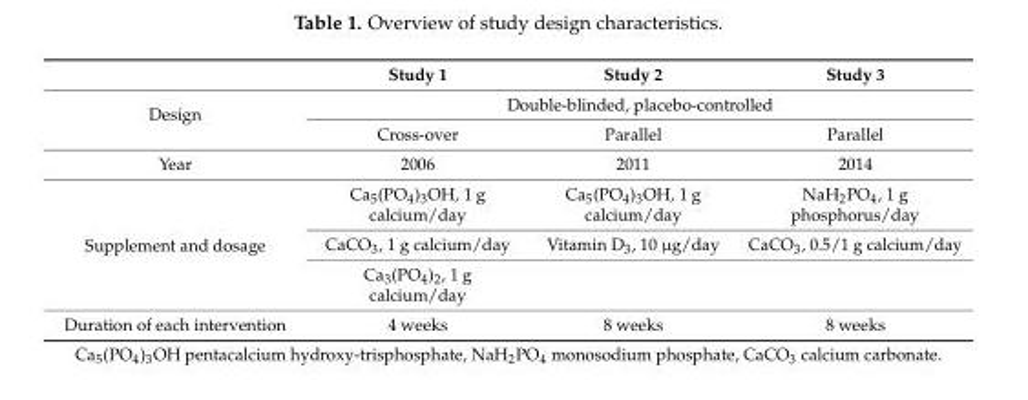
<table><thead><tr><td></td><td>Study 1</td><td>Study 2</td><td>Study 3</td></tr></thead><tbody><tr><td rowspan="2">Design</td><td colspan="3">Double-blinded, placebo-controlled</td></tr><tr><td>Cross-over</td><td>Parallel</td><td>Parallel</td></tr><tr><td>Year</td><td>2006</td><td>2011</td><td>2014</td></tr><tr><td rowspan="3">Supplement and dosage</td><td>Ca<sub>5</sub>(PO<sub>4</sub>)<sub>3</sub>OH, 1 g calcium/day</td><td>Ca<sub>5</sub>(PO<sub>4</sub>)<sub>3</sub>OH, 1 g calcium/day</td><td>NaH<sub>2</sub>PO<sub>4</sub>, 1 g phosphorus/day</td></tr><tr><td>CaCO<sub>3</sub>, 1 g calcium/day</td><td>Vitamin D<sub>3</sub>, 10 µg/day</td><td>CaCO<sub>3</sub>, 0.5/1 g calcium/day</td></tr><tr><td>Ca<sub>3</sub>(PO<sub>4</sub>)<sub>2</sub>, 1 g calcium/day</td><td></td><td></td></tr><tr><td>Duration of each intervention</td><td>4 weeks</td><td>8 weeks</td><td>8 weeks</td></tr></tbody></table>